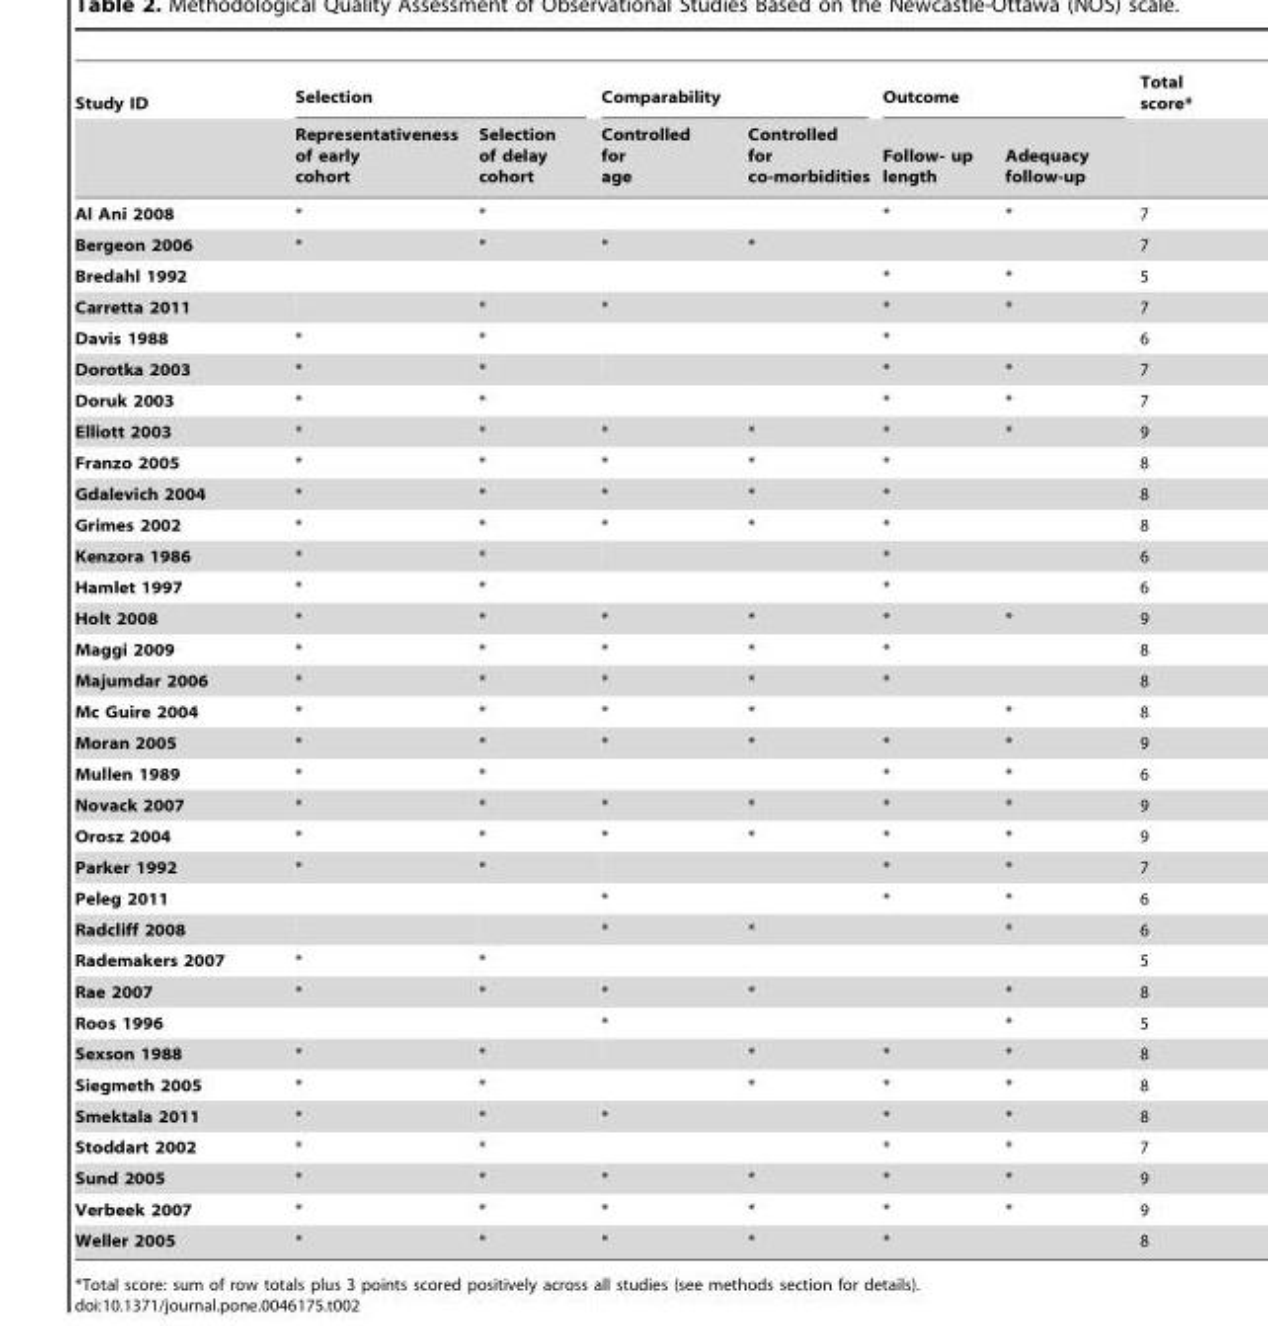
<table><thead><tr><td rowspan="2">Study ID</td><td colspan="2">Selection</td><td colspan="2">Comparability</td><td colspan="2">Outcome</td><td rowspan="2">Total score*</td></tr><tr><td>Representativeness of early cohort</td><td>Selection of delay cohort</td><td>Controlled for age</td><td>Controlled for co-morbidities</td><td>Follow- up length</td><td>Adequacy follow-up</td></tr></thead><tbody><tr><td>Al Ani 2008</td><td>*</td><td>*</td><td></td><td></td><td>*</td><td>*</td><td>7</td></tr><tr><td>Bergeon 2006</td><td>*</td><td>*</td><td>*</td><td>*</td><td></td><td></td><td>7</td></tr><tr><td>Bredahl 1992</td><td></td><td></td><td></td><td></td><td>*</td><td>*</td><td>5</td></tr><tr><td>Carretta 2011</td><td></td><td>*</td><td>*</td><td></td><td>*</td><td>*</td><td>7</td></tr><tr><td>Davis 1988</td><td>*</td><td>*</td><td></td><td></td><td>*</td><td></td><td>6</td></tr><tr><td>Dorotka 2003</td><td>*</td><td>*</td><td></td><td></td><td>*</td><td>*</td><td>7</td></tr><tr><td>Doruk 2003</td><td>*</td><td>*</td><td></td><td></td><td>*</td><td>*</td><td>7</td></tr><tr><td>Elliott 2003</td><td>*</td><td>*</td><td>*</td><td>*</td><td>*</td><td>*</td><td>9</td></tr><tr><td>Franzo 2005</td><td>*</td><td>*</td><td>*</td><td>*</td><td>*</td><td></td><td>8</td></tr><tr><td>Gdalevich 2004</td><td>*</td><td>*</td><td>*</td><td>*</td><td>*</td><td></td><td>8</td></tr><tr><td>Grimes 2002</td><td>*</td><td>*</td><td>*</td><td>*</td><td>*</td><td></td><td>8</td></tr><tr><td>Kenzora 1986</td><td>*</td><td>*</td><td></td><td></td><td>*</td><td></td><td>6</td></tr><tr><td>Hamlet 1997</td><td>*</td><td>*</td><td></td><td></td><td>*</td><td></td><td>6</td></tr><tr><td>Holt 2008</td><td>*</td><td>*</td><td>*</td><td>*</td><td>*</td><td>*</td><td>9</td></tr><tr><td>Maggi 2009</td><td>*</td><td>*</td><td>*</td><td>*</td><td>*</td><td></td><td>8</td></tr><tr><td>Majumdar 2006</td><td>*</td><td>*</td><td>*</td><td>*</td><td>*</td><td></td><td>8</td></tr><tr><td>Mc Guire 2004</td><td>*</td><td>*</td><td>*</td><td>*</td><td></td><td>*</td><td>8</td></tr><tr><td>Moran 2005</td><td>*</td><td>*</td><td>*</td><td>*</td><td>*</td><td>*</td><td>9</td></tr><tr><td>Mullen 1989</td><td>*</td><td>*</td><td></td><td></td><td>*</td><td>*</td><td>6</td></tr><tr><td>Novack 2007</td><td>*</td><td>*</td><td>*</td><td>*</td><td>*</td><td>*</td><td>9</td></tr><tr><td>Orosz 2004</td><td>*</td><td>*</td><td>*</td><td>*</td><td>*</td><td>*</td><td>9</td></tr><tr><td>Parker 1992</td><td>*</td><td>*</td><td></td><td></td><td>*</td><td>*</td><td>7</td></tr><tr><td>Peleg 2011</td><td></td><td></td><td>*</td><td></td><td>*</td><td>*</td><td>6</td></tr><tr><td>Radcliff 2008</td><td></td><td></td><td>*</td><td>*</td><td></td><td>*</td><td>6</td></tr><tr><td>Rademakers 2007</td><td>*</td><td>*</td><td></td><td></td><td></td><td></td><td>5</td></tr><tr><td>Rae 2007</td><td>*</td><td>*</td><td>*</td><td>*</td><td></td><td>*</td><td>8</td></tr><tr><td>Roos 1996</td><td></td><td></td><td>*</td><td></td><td></td><td>*</td><td>5</td></tr><tr><td>Sexson 1988</td><td>*</td><td>*</td><td></td><td>*</td><td>*</td><td>*</td><td>8</td></tr><tr><td>Siegmeth 2005</td><td>*</td><td>*</td><td></td><td>*</td><td>*</td><td>*</td><td>8</td></tr><tr><td>Smektala 2011</td><td>*</td><td>*</td><td>*</td><td></td><td>*</td><td>*</td><td>8</td></tr><tr><td>Stoddart 2002</td><td>*</td><td>*</td><td></td><td></td><td>*</td><td>*</td><td>7</td></tr><tr><td>Sund 2005</td><td>*</td><td>*</td><td>*</td><td>*</td><td>*</td><td>*</td><td>9</td></tr><tr><td>Verbeek 2007</td><td>*</td><td>*</td><td>*</td><td>*</td><td>*</td><td>*</td><td>9</td></tr><tr><td>Weller 2005</td><td>*</td><td>*</td><td>*</td><td>*</td><td>*</td><td></td><td>8</td></tr></tbody></table>